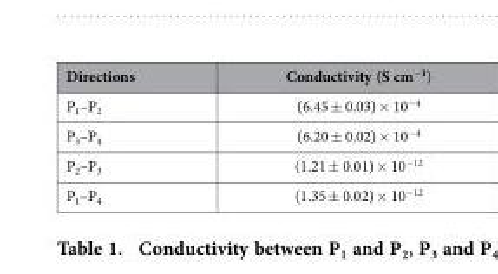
<table><thead><tr><td>Directions</td><td>Conductivity (S cm<sup>−1</sup>)</td></tr></thead><tbody><tr><td>P<sub>1</sub>–P<sub>2</sub></td><td>(6.45 ± 0.03) × 10<sup>−4</sup></td></tr><tr><td>P<sub>3</sub>–P<sub>4</sub></td><td>(6.20 ± 0.02) × 10<sup>−4</sup></td></tr><tr><td>P<sub>2</sub>–P<sub>3</sub></td><td>(1.21 ± 0.01) × 10<sup>−12</sup></td></tr><tr><td>P<sub>1</sub>–P<sub>4</sub></td><td>(1.35 ± 0.02) × 10<sup>−12</sup></td></tr></tbody></table>